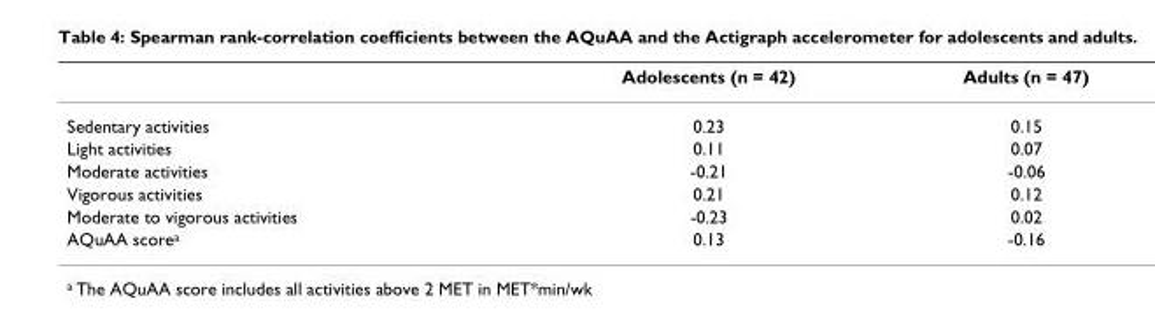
<table><thead><tr><td></td><td>Adolescents (n = 42)</td><td>Adults (n = 47)</td></tr></thead><tbody><tr><td>Sedentary activities</td><td>0.23</td><td>0.15</td></tr><tr><td>Light activities</td><td>0.11</td><td>0.07</td></tr><tr><td>Moderate activities</td><td>-0.21</td><td>-0.06</td></tr><tr><td>Vigorous activities</td><td>0.21</td><td>0.12</td></tr><tr><td>Moderate to vigorous activities</td><td>-0.23</td><td>0.02</td></tr><tr><td>AQuAA score<sup>a</sup></td><td>0.13</td><td>-0.16</td></tr></tbody></table>